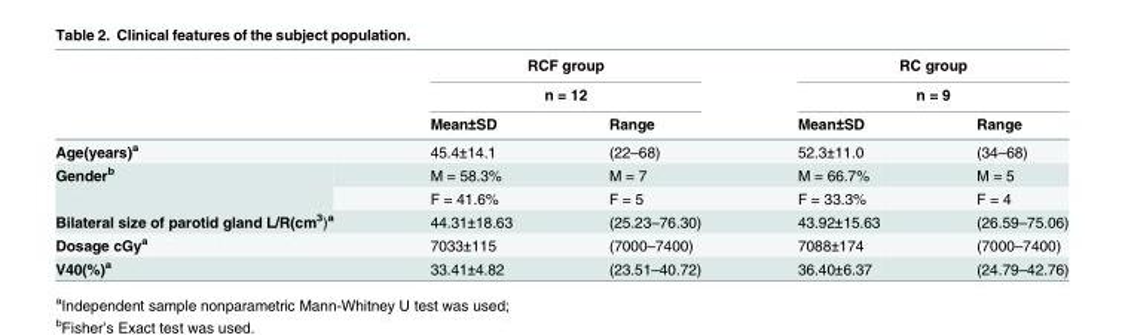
<table><thead><tr><td rowspan="3"></td><td rowspan="2" colspan="2">RCF group n = 12</td><td rowspan="2" colspan="2">RC group n = 9</td></tr><tr></tr><tr><td>Mean±SD</td><td>Range</td><td>Mean±SD</td><td>Range</td></tr></thead><tbody><tr><td>Age(years)<sup>a</sup></td><td>45.4±14.1</td><td>(22–68)</td><td>52.3±11.0</td><td>(34–68)</td></tr><tr><td rowspan="2">Gender<sup>b</sup></td><td>M = 58.3%</td><td>M = 7</td><td>M = 66.7%</td><td>M = 5</td></tr><tr><td>F = 41.6%</td><td>F = 5</td><td>F = 33.3%</td><td>F = 4</td></tr><tr><td>Bilateral size of parotid gland L/R(cm<sup>3</sup>)<sup>a</sup></td><td>44.31±18.63</td><td>(25.23–76.30)</td><td>43.92±15.63</td><td>(26.59–75.06)</td></tr><tr><td>Dosage cGy<sup>a</sup></td><td>7033±115</td><td>(7000–7400)</td><td>7088±174</td><td>(7000–7400)</td></tr><tr><td>V40(%)<sup>a</sup></td><td>33.41±4.82</td><td>(23.51–40.72)</td><td>36.40±6.37</td><td>(24.79–42.76)</td></tr></tbody></table>